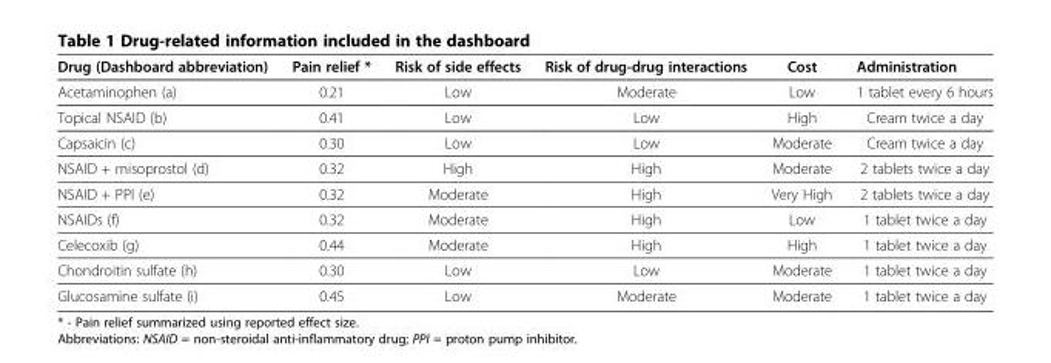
<table><thead><tr><td>Drug (Dashboard abbreviation)</td><td>Pain relief *</td><td>Risk of side effects</td><td>Risk of drug-drug interactions</td><td>Cost</td><td>Administration</td></tr></thead><tbody><tr><td>Acetaminophen (a)</td><td>0.21</td><td>Low</td><td>Moderate</td><td>Low</td><td>1 tablet every 6 hours</td></tr><tr><td>Topical NSAID (b)</td><td>0.41</td><td>Low</td><td>Low</td><td>High</td><td>Cream twice a day</td></tr><tr><td>Capsaicin (c)</td><td>0.30</td><td>Low</td><td>Low</td><td>Moderate</td><td>Cream twice a day</td></tr><tr><td>NSAID + misoprostol (d)</td><td>0.32</td><td>High</td><td>High</td><td>Moderate</td><td>2 tablets twice a day</td></tr><tr><td>NSAID + PPI (e)</td><td>0.32</td><td>Moderate</td><td>High</td><td>Very High</td><td>2 tablets twice a day</td></tr><tr><td>NSAIDs (f)</td><td>0.32</td><td>Moderate</td><td>High</td><td>Low</td><td>1 tablet twice a day</td></tr><tr><td>Celecoxib (g)</td><td>0.44</td><td>Moderate</td><td>High</td><td>High</td><td>1 tablet twice a day</td></tr><tr><td>Chondroitin sulfate (h)</td><td>0.30</td><td>Low</td><td>Low</td><td>Moderate</td><td>1 tablet twice a day</td></tr><tr><td>Glucosamine sulfate (i)</td><td>0.45</td><td>Low</td><td>Moderate</td><td>Moderate</td><td>1 tablet twice a day</td></tr></tbody></table>